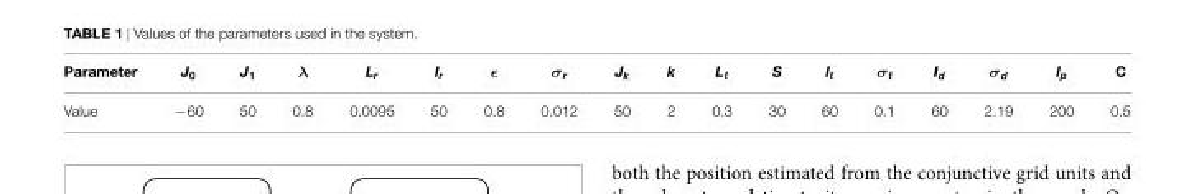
<table><thead><tr><td>Parameter</td><td>J<sub>0</sub></td><td>J<sub>1</sub></td><td>λ</td><td>L<sub>r</sub></td><td>I<sub>r</sub></td><td>ϵ</td><td>σ<sub>r</sub></td><td>J<sub>k</sub></td><td>k</td><td>L<sub>t</sub></td><td>S</td><td>I<sub>t</sub></td><td>σ<sub>t</sub></td><td>I<sub>d</sub></td><td>σ<sub>d</sub></td><td>I<sub>p</sub></td><td>C</td></tr></thead><tbody><tr><td>Value</td><td>−60</td><td>50</td><td>0.8</td><td>0.0095</td><td>50</td><td>0.8</td><td>0.012</td><td>50</td><td>2</td><td>0.3</td><td>30</td><td>60</td><td>0.1</td><td>60</td><td>2.19</td><td>200</td><td>0.5</td></tr></tbody></table>